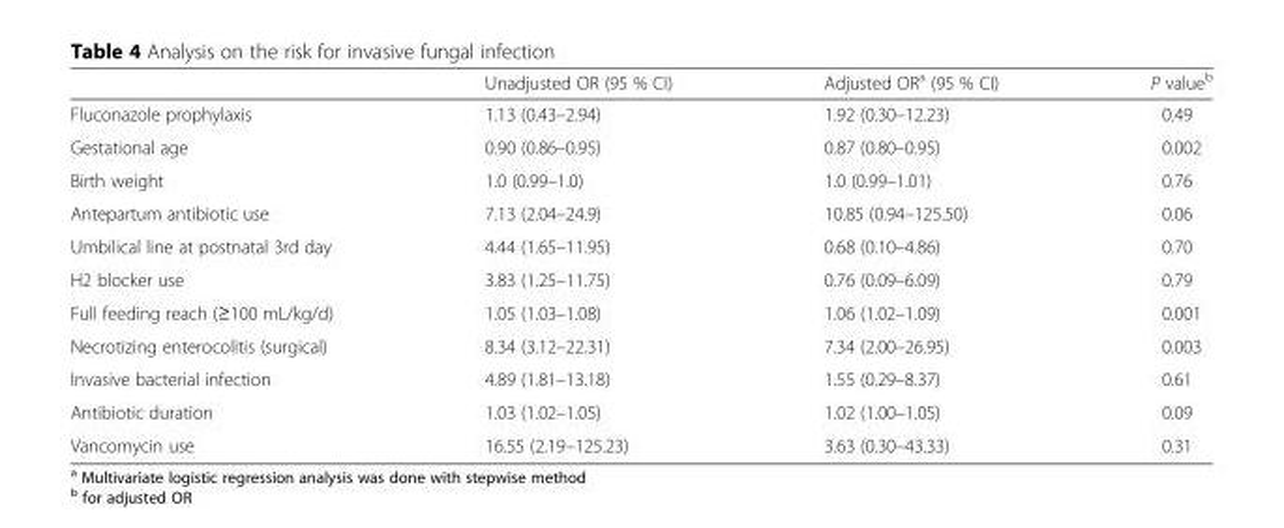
<table><thead><tr><td></td><td>Unadjusted OR (95 % CI)</td><td>Adjusted OR<sup>a</sup> (95 % CI)</td><td>P value<sup>b</sup></td></tr></thead><tbody><tr><td>Fluconazole prophylaxis</td><td>1.13 (0.43–2.94)</td><td>1.92 (0.30–12.23)</td><td>0.49</td></tr><tr><td>Gestational age</td><td>0.90 (0.86–0.95)</td><td>0.87 (0.80–0.95)</td><td>0.002</td></tr><tr><td>Birth weight</td><td>1.0 (0.99–1.0)</td><td>1.0 (0.99–1.01)</td><td>0.76</td></tr><tr><td>Antepartum antibiotic use</td><td>7.13 (2.04–24.9)</td><td>10.85 (0.94–125.50)</td><td>0.06</td></tr><tr><td>Umbilical line at postnatal 3rd day</td><td>4.44 (1.65–11.95)</td><td>0.68 (0.10–4.86)</td><td>0.70</td></tr><tr><td>H2 blocker use</td><td>3.83 (1.25–11.75)</td><td>0.76 (0.09–6.09)</td><td>0.79</td></tr><tr><td>Full feeding reach (≥100 mL/kg/d)</td><td>1.05 (1.03–1.08)</td><td>1.06 (1.02–1.09)</td><td>0.001</td></tr><tr><td>Necrotizing enterocolitis (surgical)</td><td>8.34 (3.12–22.31)</td><td>7.34 (2.00–26.95)</td><td>0.003</td></tr><tr><td>Invasive bacterial infection</td><td>4.89 (1.81–13.18)</td><td>1.55 (0.29–8.37)</td><td>0.61</td></tr><tr><td>Antibiotic duration</td><td>1.03 (1.02–1.05)</td><td>1.02 (1.00–1.05)</td><td>0.09</td></tr><tr><td>Vancomycin use</td><td>16.55 (2.19–125.23)</td><td>3.63 (0.30–43.33)</td><td>0.31</td></tr></tbody></table>